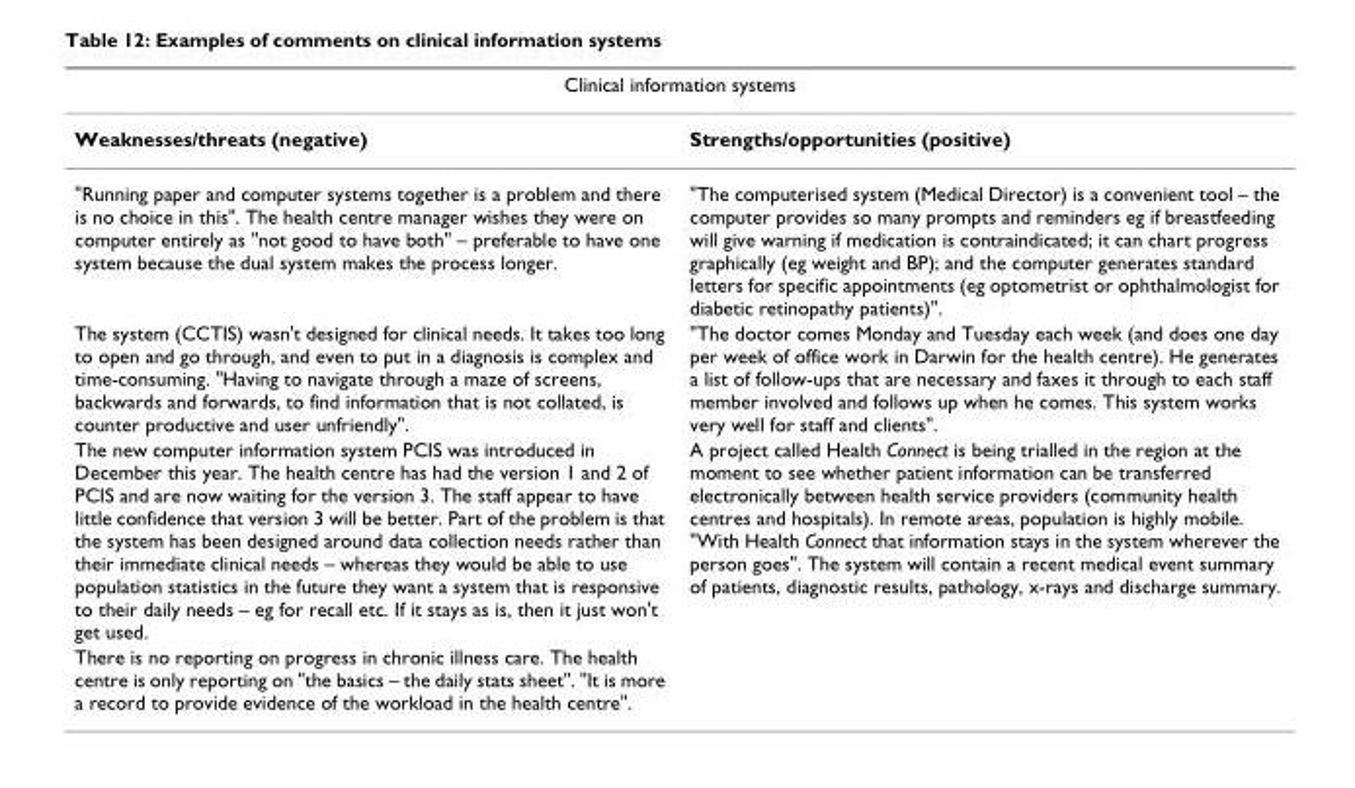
<table><thead><tr><td colspan="2">Clinical information systems</td></tr><tr><td>Weaknesses/threats (negative)</td><td>Strengths/opportunities (positive)</td></tr></thead><tbody><tr><td>&quot;Running paper and computer systems together is a problem and there is no choice in this&quot;. The health centre manager wishes they were on computer entirely as &quot;not good to have both&quot; – preferable to have one system because the dual system makes the process longer.</td><td>&quot;The computerised system (Medical Director) is a convenient tool – the computer provides so many prompts and reminders eg if breastfeeding will give warning if medication is contraindicated; it can chart progress graphically (eg weight and BP); and the computer generates standard letters for specific appointments (eg optometrist or ophthalmologist for diabetic retinopathy patients)&quot;.</td></tr><tr><td>The system (CCTIS) wasn&#x27;t designed for clinical needs. It takes too long to open and go through, and even to put in a diagnosis is complex and time-consuming. &quot;Having to navigate through a maze of screens, backwards and forwards, to find information that is not collated, is counter productive and user unfriendly&quot;.</td><td>&quot;The doctor comes Monday and Tuesday each week (and does one day per week of office work in Darwin for the health centre). He generates a list of follow-ups that are necessary and faxes it through to each staff member involved and follows up when he comes. This system works very well for staff and clients&quot;.</td></tr><tr><td>The new computer information system PCIS was introduced in December this year. The health centre has had the version 1 and 2 of PCIS and are now waiting for the version 3. The staff appear to have little confidence that version 3 will be better. Part of the problem is that the system has been designed around data collection needs rather than their immediate clinical needs – whereas they would be able to use population statistics in the future they want a system that is responsive to their daily needs – eg for recall etc. If it stays as is, then it just won&#x27;t get used.</td><td>A project called Health Connect is being trialled in the region at the moment to see whether patient information can be transferred electronically between health service providers (community health centres and hospitals). In remote areas, population is highly mobile. &quot;With Health Connect that information stays in the system wherever the person goes&quot;. The system will contain a recent medical event summary of patients, diagnostic results, pathology, x-rays and discharge summary.</td></tr><tr><td>There is no reporting on progress in chronic illness care. The health centre is only reporting on &quot;the basics – the daily stats sheet&quot;. &quot;It is more a record to provide evidence of the workload in the health centre&quot;.</td><td></td></tr></tbody></table>